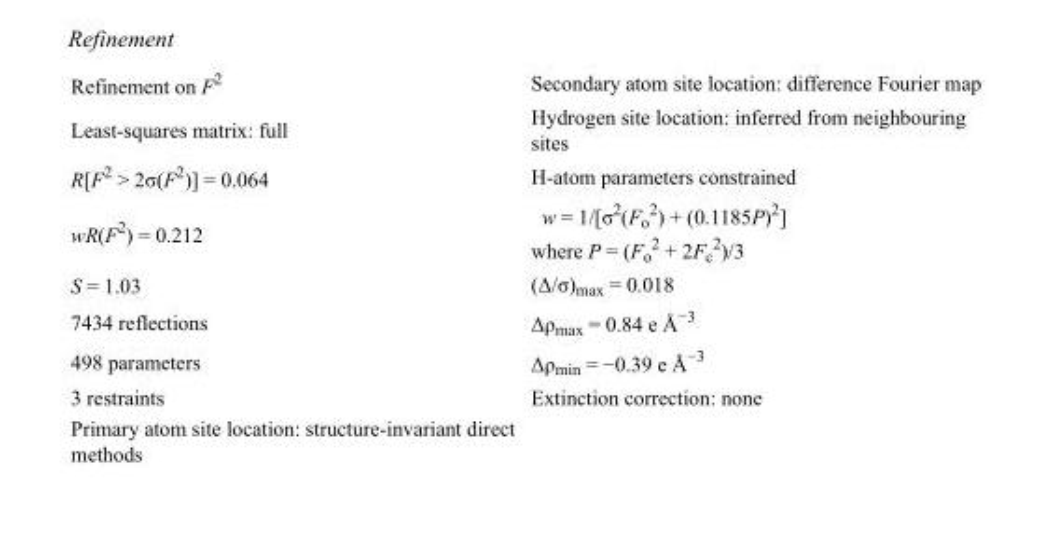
<table><tbody><tr><td>Refinement on F<sup>2</sup></td><td>Secondary atom site location: difference Fourier map</td></tr><tr><td>Least-squares matrix: full</td><td>Hydrogen site location: inferred from neighbouring sites</td></tr><tr><td>R[F<sup>2</sup> &gt; 2σ(F<sup>2</sup>)] = 0.064</td><td>H-atom parameters constrained</td></tr><tr><td>wR(F<sup>2</sup>) = 0.212</td><td>w = 1/[σ<sup>2</sup>(F<sub>o</sub> <sup>2</sup>) + (0.1185P)<sup>2</sup>] where P = (F<sub>o</sub> <sup>2</sup> + 2F<sub>c</sub> <sup>2</sup>)/3</td></tr><tr><td>S = 1.03</td><td>(Δ/σ)<sub>max</sub> = 0.018</td></tr><tr><td>7434 reflections</td><td>Δρ<sub>max</sub> = 0.84 e Å<sup>−3</sup></td></tr><tr><td>498 parameters</td><td>Δρ<sub>min</sub> = −0.39 e Å<sup>−3</sup></td></tr><tr><td>3 restraints</td><td>Extinction correction: none</td></tr><tr><td>Primary atom site location: structure-invariant direct methods</td><td></td></tr></tbody></table>